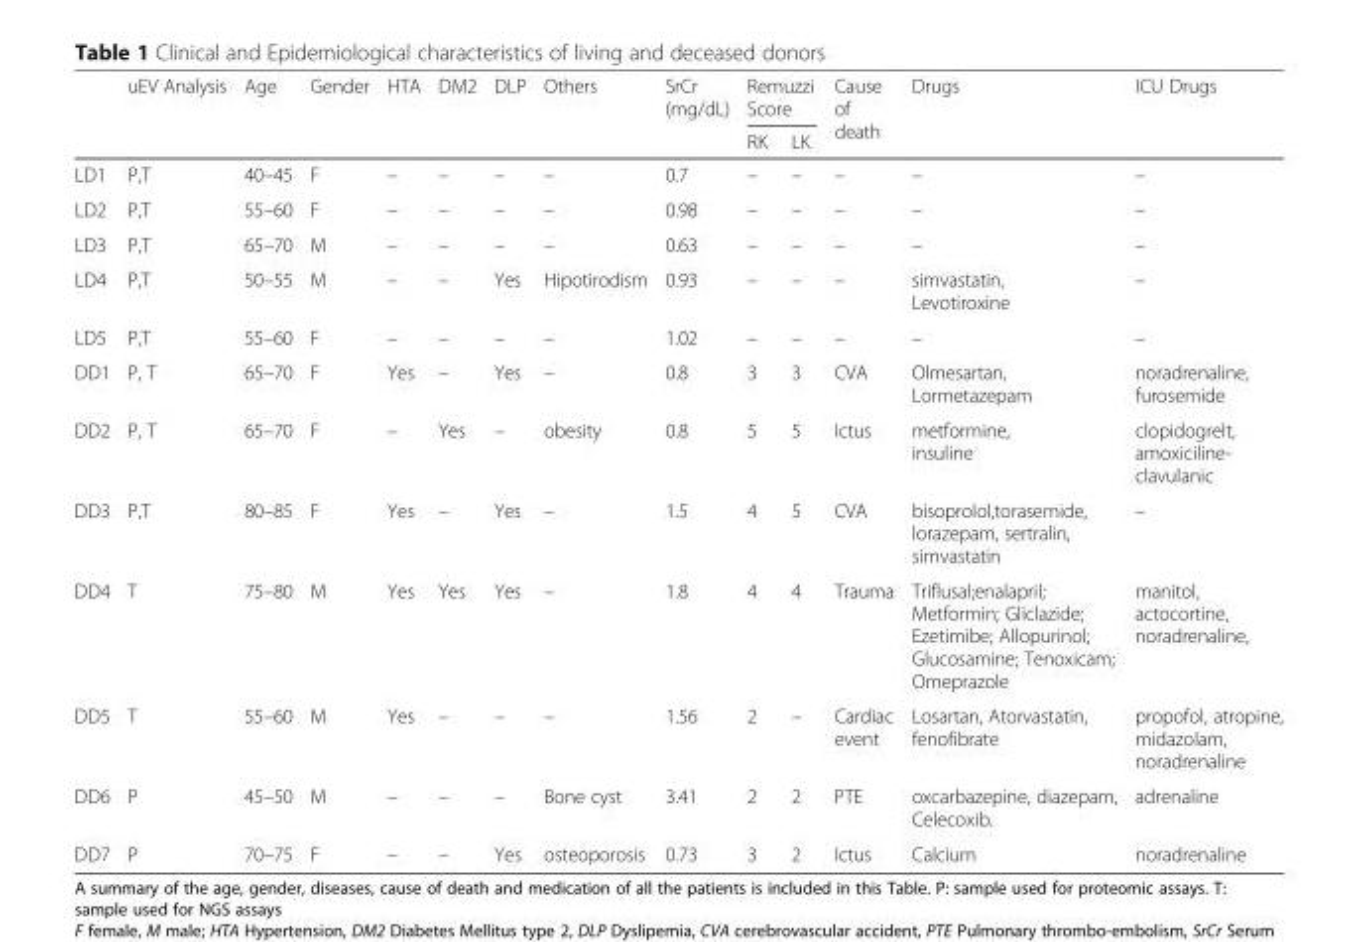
<table><thead><tr><td rowspan="2"></td><td rowspan="2">uEV Analysis</td><td rowspan="2">Age</td><td rowspan="2">Gender</td><td rowspan="2">HTA</td><td rowspan="2">DM2</td><td rowspan="2">DLP</td><td rowspan="2">Others</td><td rowspan="2">SrCr (mg/dL)</td><td colspan="2">Remuzzi Score</td><td rowspan="2">Cause of death</td><td rowspan="2">Drugs</td><td rowspan="2">ICU Drugs</td></tr><tr><td>RK</td><td>LK</td></tr></thead><tbody><tr><td>LD1</td><td>P,T</td><td>40–45</td><td>F</td><td>–</td><td>–</td><td>–</td><td>–</td><td>0.7</td><td>–</td><td>–</td><td>–</td><td>–</td><td>–</td></tr><tr><td>LD2</td><td>P,T</td><td>55–60</td><td>F</td><td>–</td><td>–</td><td>–</td><td>–</td><td>0.98</td><td>–</td><td>–</td><td>–</td><td>–</td><td>–</td></tr><tr><td>LD3</td><td>P,T</td><td>65–70</td><td>M</td><td>–</td><td>–</td><td>–</td><td>–</td><td>0.63</td><td>–</td><td>–</td><td>–</td><td>–</td><td>–</td></tr><tr><td>LD4</td><td>P,T</td><td>50–55</td><td>M</td><td>–</td><td>–</td><td>Yes</td><td>Hipotirodism</td><td>0.93</td><td>–</td><td>–</td><td>–</td><td>simvastatin, Levotiroxine</td><td>–</td></tr><tr><td>LD5</td><td>P,T</td><td>55–60</td><td>F</td><td>–</td><td>–</td><td>–</td><td>–</td><td>1.02</td><td>–</td><td>–</td><td>–</td><td>–</td><td>–</td></tr><tr><td>DD1</td><td>P, T</td><td>65–70</td><td>F</td><td>Yes</td><td>–</td><td>Yes</td><td>–</td><td>0.8</td><td>3</td><td>3</td><td>CVA</td><td>Olmesartan, Lormetazepam</td><td>noradrenaline, furosemide</td></tr><tr><td>DD2</td><td>P, T</td><td>65–70</td><td>F</td><td>–</td><td>Yes</td><td>–</td><td>obesity</td><td>0.8</td><td>5</td><td>5</td><td>Ictus</td><td>metformine, insuline</td><td>clopidogrelt, amoxiciline- clavulanic</td></tr><tr><td>DD3</td><td>P,T</td><td>80–85</td><td>F</td><td>Yes</td><td>–</td><td>Yes</td><td>–</td><td>1.5</td><td>4</td><td>5</td><td>CVA</td><td>bisoprolol,torasemide, lorazepam, sertralin, simvastatin</td><td>–</td></tr><tr><td>DD4</td><td>T</td><td>75–80</td><td>M</td><td>Yes</td><td>Yes</td><td>Yes</td><td>–</td><td>1.8</td><td>4</td><td>4</td><td>Trauma</td><td>Triflusal;enalapril; Metformin; Gliclazide; Ezetimibe; Allopurinol; Glucosamine; Tenoxicam; Omeprazole</td><td>manitol, actocortine, noradrenaline,</td></tr><tr><td>DD5</td><td>T</td><td>55–60</td><td>M</td><td>Yes</td><td>–</td><td>–</td><td>–</td><td>1.56</td><td>2</td><td>–</td><td>Cardiac event</td><td>Losartan, Atorvastatin, fenofibrate</td><td>propofol, atropine, midazolam, noradrenaline</td></tr><tr><td>DD6</td><td>P</td><td>45–50</td><td>M</td><td>–</td><td>–</td><td>–</td><td>Bone cyst</td><td>3.41</td><td>2</td><td>2</td><td>PTE</td><td>oxcarbazepine, diazepam, Celecoxib.</td><td>adrenaline</td></tr><tr><td>DD7</td><td>P</td><td>70–75</td><td>F</td><td>–</td><td>–</td><td>Yes</td><td>osteoporosis</td><td>0.73</td><td>3</td><td>2</td><td>Ictus</td><td>Calcium</td><td>noradrenaline</td></tr></tbody></table>